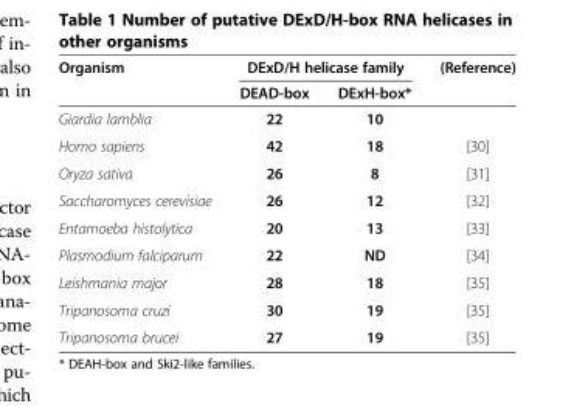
<table><thead><tr><td rowspan="2">Organism</td><td colspan="2">DExD/H helicase family</td><td rowspan="2">(Reference)</td></tr><tr><td>DEAD-box</td><td>DExH-box*</td></tr></thead><tbody><tr><td>Giardia lamblia</td><td>22</td><td>10</td><td></td></tr><tr><td>Homo sapiens</td><td>42</td><td>18</td><td>[30]</td></tr><tr><td>Oryza sativa</td><td>26</td><td>8</td><td>[31]</td></tr><tr><td>Saccharomyces cerevisiae</td><td>26</td><td>12</td><td>[32]</td></tr><tr><td>Entamoeba histolytica</td><td>20</td><td>13</td><td>[33]</td></tr><tr><td>Plasmodium falciparum</td><td>22</td><td>ND</td><td>[34]</td></tr><tr><td>Leishmania major</td><td>28</td><td>18</td><td>[35]</td></tr><tr><td>Tripanosoma cruzi</td><td>30</td><td>19</td><td>[35]</td></tr><tr><td>Tripanosoma brucei</td><td>27</td><td>19</td><td>[35]</td></tr></tbody></table>